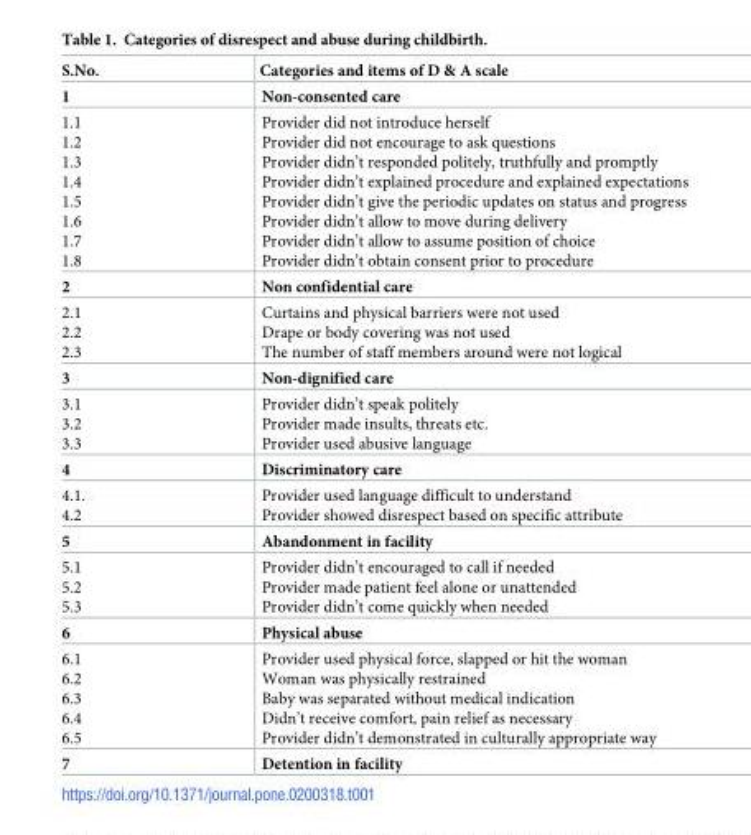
<table><thead><tr><td>S.No.</td><td>Categories and items of D &amp; A scale</td></tr></thead><tbody><tr><td>1</td><td>Non-consented care</td></tr><tr><td>1.1 1.2 1.3 1.4 1.5 1.6 1.7 1.8</td><td>Provider did not introduce herself Provider did not encourage to ask questions Provider didn’t responded politely, truthfully and promptly Provider didn’t explained procedure and explained expectations Provider didn’t give the periodic updates on status and progress Provider didn’t allow to move during delivery Provider didn’t allow to assume position of choice Provider didn’t obtain consent prior to procedure</td></tr><tr><td>2</td><td>Non confidential care</td></tr><tr><td>2.1 2.2 2.3</td><td>Curtains and physical barriers were not used Drape or body covering was not used The number of staff members around were not logical</td></tr><tr><td>3</td><td>Non-dignified care</td></tr><tr><td>3.1 3.2 3.3</td><td>Provider didn’t speak politely Provider made insults, threats etc. Provider used abusive language</td></tr><tr><td>4</td><td>Discriminatory care</td></tr><tr><td>4.1. 4.2</td><td>Provider used language difficult to understand Provider showed disrespect based on specific attribute</td></tr><tr><td>5</td><td>Abandonment in facility</td></tr><tr><td>5.1 5.2 5.3</td><td>Provider didn’t encouraged to call if needed Provider made patient feel alone or unattended Provider didn’t come quickly when needed</td></tr><tr><td>6</td><td>Physical abuse</td></tr><tr><td>6.1 6.2 6.3 6.4 6.5</td><td>Provider used physical force, slapped or hit the woman Woman was physically restrained Baby was separated without medical indication Didn’t receive comfort, pain relief as necessary Provider didn’t demonstrated in culturally appropriate way</td></tr><tr><td>7</td><td>Detention in facility</td></tr></tbody></table>